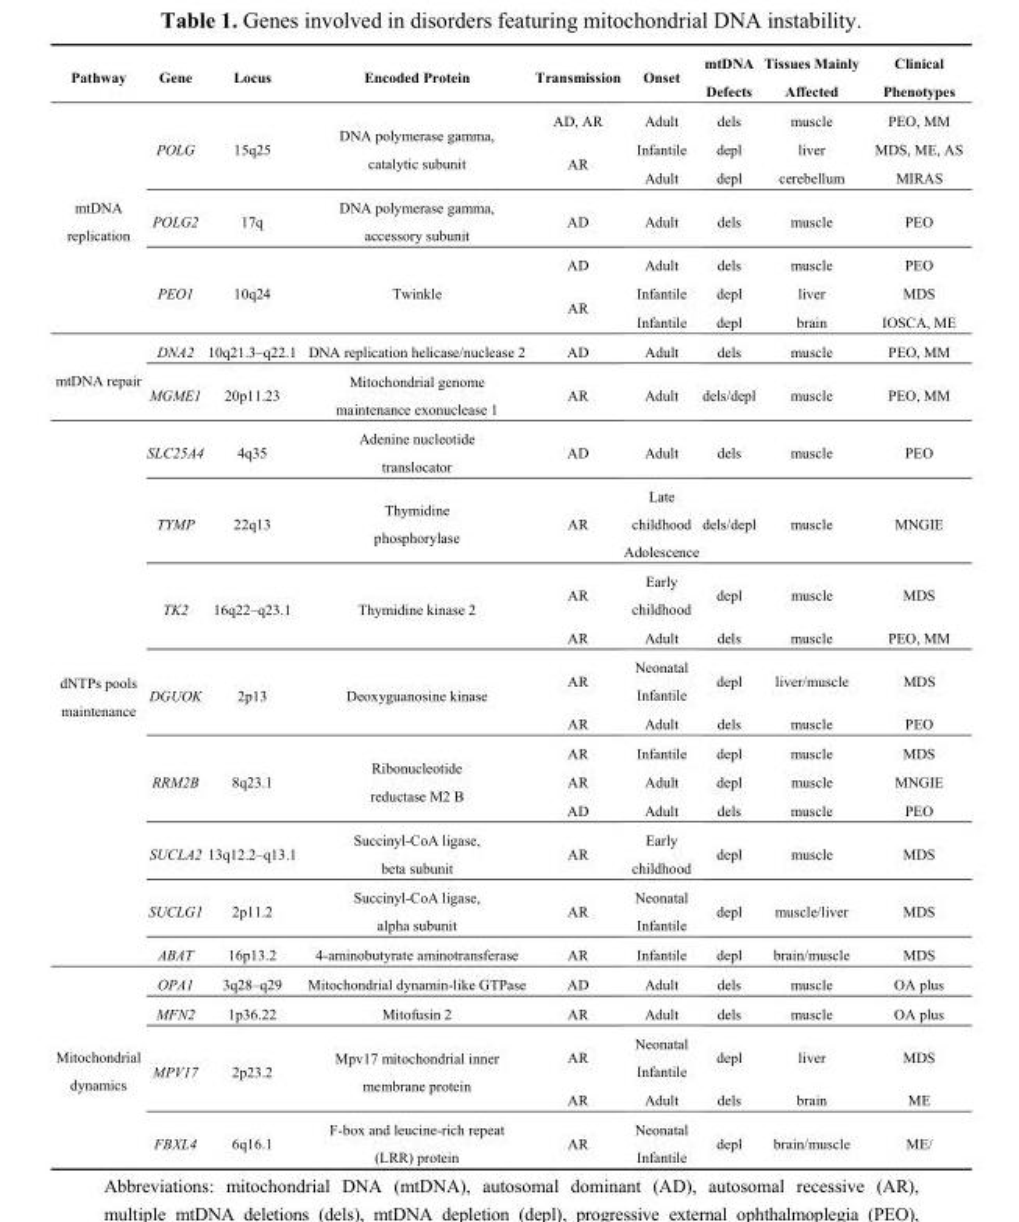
<table><thead><tr><td>Pathway</td><td>Gene</td><td>Locus</td><td>Encoded Protein</td><td>Transmission</td><td>Onset</td><td>mtDNA Defects</td><td>Tissues Mainly Affected</td><td>Clinical Phenotypes</td></tr></thead><tbody><tr><td rowspan="7">mtDNA replication</td><td rowspan="3">POLG</td><td rowspan="3">15q25</td><td rowspan="3">DNA polymerase gamma, catalytic subunit</td><td>AD, AR</td><td>Adult</td><td>dels</td><td>muscle</td><td>PEO, MM</td></tr><tr><td rowspan="2">AR</td><td>Infantile</td><td>depl</td><td>liver</td><td>MDS, ME, AS</td></tr><tr><td>Adult</td><td>depl</td><td>cerebellum</td><td>MIRAS</td></tr><tr><td>POLG2</td><td>17q</td><td>DNA polymerase gamma, accessory subunit</td><td>AD</td><td>Adult</td><td>dels</td><td>muscle</td><td>PEO</td></tr><tr><td rowspan="3">PEO1</td><td rowspan="3">10q24</td><td rowspan="3">Twinkle</td><td>AD</td><td>Adult</td><td>dels</td><td>muscle</td><td>PEO</td></tr><tr><td rowspan="2">AR</td><td>Infantile</td><td>depl</td><td>liver</td><td>MDS</td></tr><tr><td>Infantile</td><td>depl</td><td>brain</td><td>IOSCA, ME</td></tr><tr><td rowspan="2">mtDNA repair</td><td>DNA2</td><td>10q21.3–q22.1</td><td>DNA replication helicase/nuclease 2</td><td>AD</td><td>Adult</td><td>dels</td><td>muscle</td><td>PEO, MM</td></tr><tr><td>MGME1</td><td>20p11.23</td><td>Mitochondrial genome maintenance exonuclease 1</td><td>AR</td><td>Adult</td><td>dels/depl</td><td>muscle</td><td>PEO, MM</td></tr><tr><td rowspan="12">dNTPs pools maintenance</td><td>SLC25A4</td><td>4q35</td><td>Adenine nucleotide translocator</td><td>AD</td><td>Adult</td><td>dels</td><td>muscle</td><td>PEO</td></tr><tr><td>TYMP</td><td>22q13</td><td>Thymidine phosphorylase</td><td>AR</td><td>Late childhood Adolescence</td><td>dels/depl</td><td>muscle</td><td>MNGIE</td></tr><tr><td rowspan="2">TK2</td><td rowspan="2">16q22–q23.1</td><td rowspan="2">Thymidine kinase 2</td><td>AR</td><td>Early childhood</td><td>depl</td><td>muscle</td><td>MDS</td></tr><tr><td>AR</td><td>Adult</td><td>dels</td><td>muscle</td><td>PEO, MM</td></tr><tr><td rowspan="2">DGUOK</td><td rowspan="2">2p13</td><td rowspan="2">Deoxyguanosine kinase</td><td>AR</td><td>Neonatal Infantile</td><td>depl</td><td>liver/muscle</td><td>MDS</td></tr><tr><td>AR</td><td>Adult</td><td>dels</td><td>muscle</td><td>PEO</td></tr><tr><td rowspan="3">RRM2B</td><td rowspan="3">8q23.1</td><td rowspan="3">Ribonucleotide reductase M2 B</td><td>AR</td><td>Infantile</td><td>depl</td><td>muscle</td><td>MDS</td></tr><tr><td>AR</td><td>Adult</td><td>depl</td><td>muscle</td><td>MNGIE</td></tr><tr><td>AD</td><td>Adult</td><td>dels</td><td>muscle</td><td>PEO</td></tr><tr><td>SUCLA2</td><td>13q12.2–q13.1</td><td>Succinyl-CoA ligase, beta subunit</td><td>AR</td><td>Early childhood</td><td>depl</td><td>muscle</td><td>MDS</td></tr><tr><td>SUCLG1</td><td>2p11.2</td><td>Succinyl-CoA ligase, alpha subunit</td><td>AR</td><td>Neonatal Infantile</td><td>depl</td><td>muscle/liver</td><td>MDS</td></tr><tr><td>ABAT</td><td>16p13.2</td><td>4-aminobutyrate aminotransferase</td><td>AR</td><td>Infantile</td><td>depl</td><td>brain/muscle</td><td>MDS</td></tr><tr><td rowspan="5">Mitochondrial dynamics</td><td>OPA1</td><td>3q28–q29</td><td>Mitochondrial dynamin-like GTPase</td><td>AD</td><td>Adult</td><td>dels</td><td>muscle</td><td>OA plus</td></tr><tr><td>MFN2</td><td>1p36.22</td><td>Mitofusin 2</td><td>AR</td><td>Adult</td><td>dels</td><td>muscle</td><td>OA plus</td></tr><tr><td rowspan="2">MPV17</td><td rowspan="2">2p23.2</td><td rowspan="2">Mpv17 mitochondrial inner membrane protein</td><td>AR</td><td>Neonatal Infantile</td><td>depl</td><td>liver</td><td>MDS</td></tr><tr><td>AR</td><td>Adult</td><td>dels</td><td>brain</td><td>ME</td></tr><tr><td>FBXL4</td><td>6q16.1</td><td>F-box and leucine-rich repeat (LRR) protein</td><td>AR</td><td>Neonatal Infantile</td><td>depl</td><td>brain/muscle</td><td>ME/</td></tr></tbody></table>